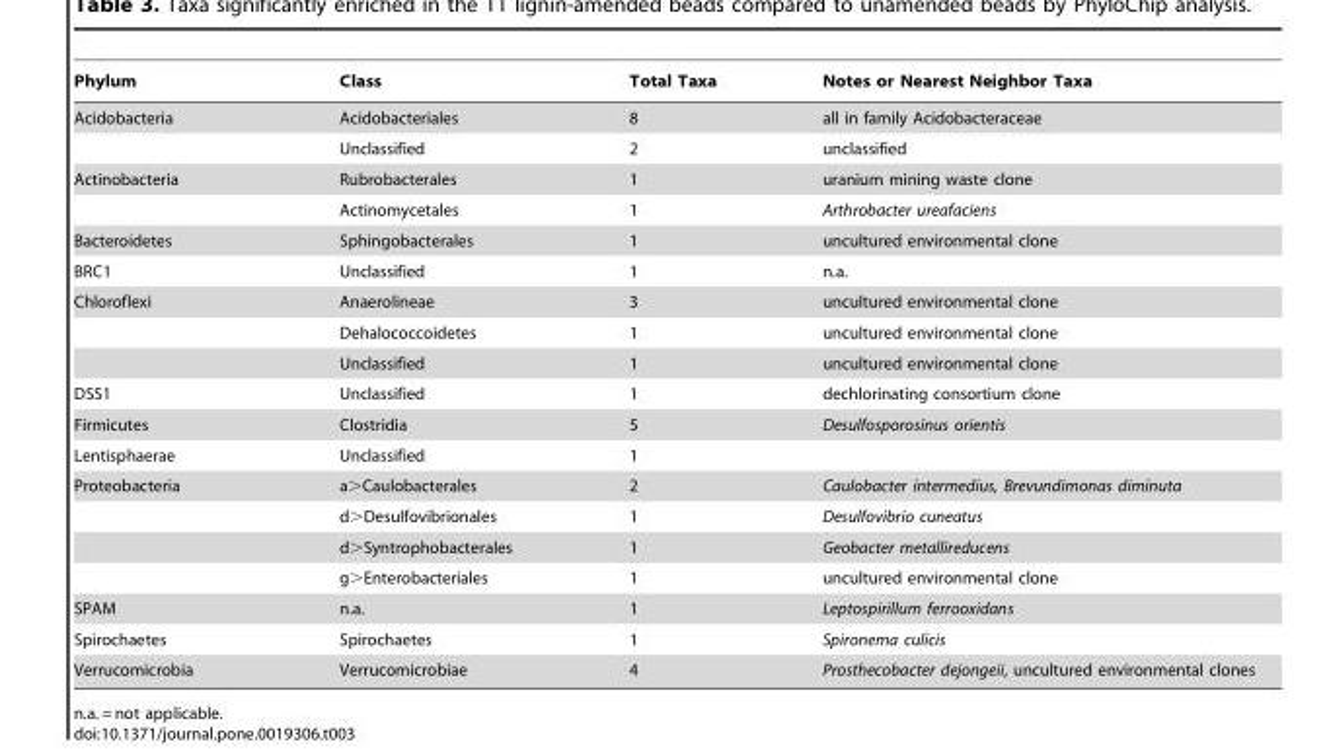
<table><thead><tr><td>Phylum</td><td>Class</td><td>Total Taxa</td><td>Notes or Nearest Neighbor Taxa</td></tr></thead><tbody><tr><td rowspan="2">Acidobacteria</td><td>Acidobacteriales</td><td>8</td><td>all in family Acidobacteraceae</td></tr><tr><td>Unclassified</td><td>2</td><td>unclassified</td></tr><tr><td rowspan="2">Actinobacteria</td><td>Rubrobacterales</td><td>1</td><td>uranium mining waste clone</td></tr><tr><td>Actinomycetales</td><td>1</td><td>Arthrobacter ureafaciens</td></tr><tr><td>Bacteroidetes</td><td>Sphingobacterales</td><td>1</td><td>uncultured environmental clone</td></tr><tr><td>BRC1</td><td>Unclassified</td><td>1</td><td>n.a.</td></tr><tr><td rowspan="3">Chloroflexi</td><td>Anaerolineae</td><td>3</td><td>uncultured environmental clone</td></tr><tr><td>Dehalococcoidetes</td><td>1</td><td>uncultured environmental clone</td></tr><tr><td>Unclassified</td><td>1</td><td>uncultured environmental clone</td></tr><tr><td>DSS1</td><td>Unclassified</td><td>1</td><td>dechlorinating consortium clone</td></tr><tr><td>Firmicutes</td><td>Clostridia</td><td>5</td><td>Desulfosporosinus orientis</td></tr><tr><td>Lentisphaerae</td><td>Unclassified</td><td>1</td><td></td></tr><tr><td rowspan="4">Proteobacteria</td><td>a&gt;Caulobacterales</td><td>2</td><td>Caulobacter intermedius, Brevundimonas diminuta</td></tr><tr><td>d&gt;Desulfovibrionales</td><td>1</td><td>Desulfovibrio cuneatus</td></tr><tr><td>d&gt;Syntrophobacterales</td><td>1</td><td>Geobacter metallireducens</td></tr><tr><td>g&gt;Enterobacteriales</td><td>1</td><td>uncultured environmental clone</td></tr><tr><td>SPAM</td><td>n.a.</td><td>1</td><td>Leptospirillum ferrooxidans</td></tr><tr><td>Spirochaetes</td><td>Spirochaetes</td><td>1</td><td>Spironema culicis</td></tr><tr><td>Verrucomicrobia</td><td>Verrucomicrobiae</td><td>4</td><td>Prosthecobacter dejongeii, uncultured environmental clones</td></tr></tbody></table>